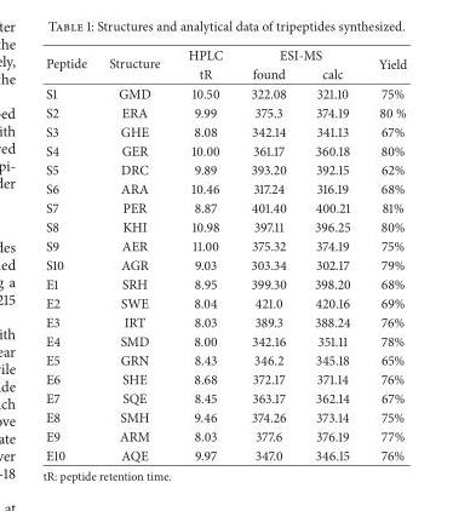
<table><thead><tr><td rowspan="2">Peptide</td><td rowspan="2">Structure</td><td rowspan="2">HPLC tR</td><td colspan="2">ESI-MS</td><td rowspan="2">Yield</td></tr><tr><td>found</td><td>calc</td></tr></thead><tbody><tr><td>S1</td><td>GMD</td><td>10.50</td><td>322.08</td><td>321.10</td><td>75%</td></tr><tr><td>S2</td><td>ERA</td><td>9.99</td><td>375.3</td><td>374.19</td><td>80 %</td></tr><tr><td>S3</td><td>GHE</td><td>8.08</td><td>342.14</td><td>341.13</td><td>67%</td></tr><tr><td>S4</td><td>GER</td><td>10.00</td><td>361.17</td><td>360.18</td><td>80%</td></tr><tr><td>S5</td><td>DRC</td><td>9.89</td><td>393.20</td><td>392.15</td><td>62%</td></tr><tr><td>S6</td><td>ARA</td><td>10.46</td><td>317.24</td><td>316.19</td><td>68%</td></tr><tr><td>S7</td><td>PER</td><td>8.87</td><td>401.40</td><td>400.21</td><td>81%</td></tr><tr><td>S8</td><td>KHI</td><td>10.98</td><td>397.11</td><td>396.25</td><td>80%</td></tr><tr><td>S9</td><td>AER</td><td>11.00</td><td>375.32</td><td>374.19</td><td>75%</td></tr><tr><td>S10</td><td>AGR</td><td>9.03</td><td>303.34</td><td>302.17</td><td>79%</td></tr><tr><td>E1</td><td>SRH</td><td>8.95</td><td>399.30</td><td>398.20</td><td>68%</td></tr><tr><td>E2</td><td>SWE</td><td>8.04</td><td>421.0</td><td>420.16</td><td>69%</td></tr><tr><td>E3</td><td>IRT</td><td>8.03</td><td>389.3</td><td>388.24</td><td>76%</td></tr><tr><td>E4</td><td>SMD</td><td>8.00</td><td>342.16</td><td>351.11</td><td>78%</td></tr><tr><td>E5</td><td>GRN</td><td>8.43</td><td>346.2</td><td>345.18</td><td>65%</td></tr><tr><td>E6</td><td>SHE</td><td>8.68</td><td>372.17</td><td>371.14</td><td>76%</td></tr><tr><td>E7</td><td>SQE</td><td>8.45</td><td>363.17</td><td>362.14</td><td>67%</td></tr><tr><td>E8</td><td>SMH</td><td>9.46</td><td>374.26</td><td>373.14</td><td>75%</td></tr><tr><td>E9</td><td>ARM</td><td>8.03</td><td>377.6</td><td>376.19</td><td>77%</td></tr><tr><td>E10</td><td>AQE</td><td>9.97</td><td>347.0</td><td>346.15</td><td>76%</td></tr></tbody></table>